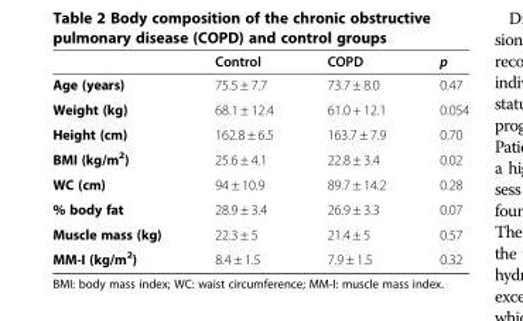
<table><thead><tr><td></td><td>Control</td><td>COPD</td><td>p</td></tr></thead><tbody><tr><td>Age (years)</td><td>75.5 ± 7.7</td><td>73.7 ± 8.0</td><td>0.47</td></tr><tr><td>Weight (kg)</td><td>68.1 ± 12.4</td><td>61.0 + 12.1</td><td>0.054</td></tr><tr><td>Height (cm)</td><td>162.8 ± 6.5</td><td>163.7 ± 7.9</td><td>0.70</td></tr><tr><td>BMI (kg/m<sup>2</sup>)</td><td>25.6 ± 4.1</td><td>22.8 ± 3.4</td><td>0.02</td></tr><tr><td>WC (cm)</td><td>94 ± 10.9</td><td>89.7 ± 14.2</td><td>0.28</td></tr><tr><td>% body fat</td><td>28.9 ± 3.4</td><td>26.9 ± 3.3</td><td>0.07</td></tr><tr><td>Muscle mass (kg)</td><td>22.3 ± 5</td><td>21.4 ± 5</td><td>0.57</td></tr><tr><td>MM-I (kg/m<sup>2</sup>)</td><td>8.4 ± 1.5</td><td>7.9 ± 1.5</td><td>0.32</td></tr></tbody></table>